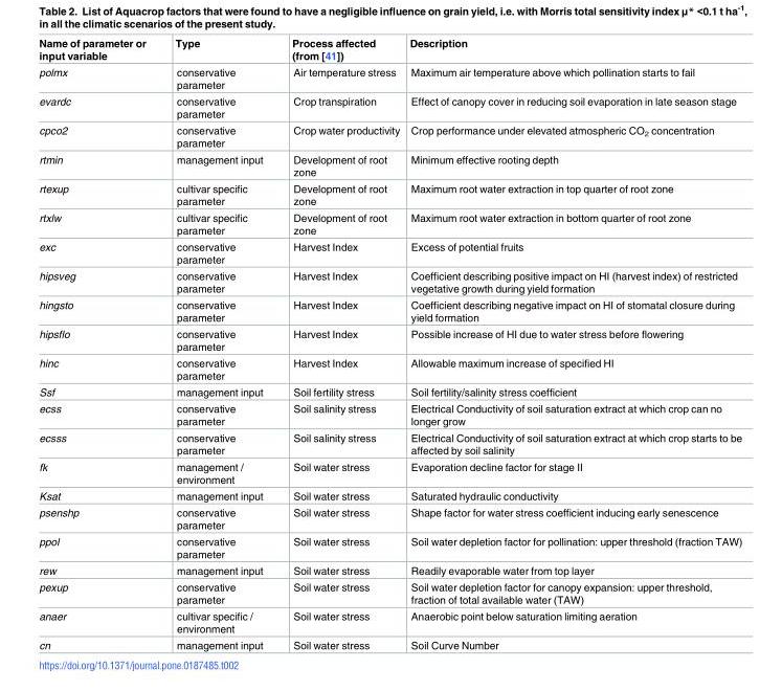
<table><thead><tr><td>Name of parameter or input variable</td><td>Type</td><td>Process affected (from [41])</td><td>Description</td></tr></thead><tbody><tr><td>polmx</td><td>conservative parameter</td><td>Air temperature stress</td><td>Maximum air temperature above which pollination starts to fail</td></tr><tr><td>evardc</td><td>conservative parameter</td><td>Crop transpiration</td><td>Effect of canopy cover in reducing soil evaporation in late season stage</td></tr><tr><td>cpco2</td><td>conservative parameter</td><td>Crop water productivity</td><td>Crop performance under elevated atmospheric CO<sub>2</sub> concentration</td></tr><tr><td>rtmin</td><td>management input</td><td>Development of root zone</td><td>Minimum effective rooting depth</td></tr><tr><td>rtexup</td><td>cultivar specific parameter</td><td>Development of root zone</td><td>Maximum root water extraction in top quarter of root zone</td></tr><tr><td>rtxlw</td><td>cultivar specific parameter</td><td>Development of root zone</td><td>Maximum root water extraction in bottom quarter of root zone</td></tr><tr><td>exc</td><td>conservative parameter</td><td>Harvest Index</td><td>Excess of potential fruits</td></tr><tr><td>hipsveg</td><td>conservative parameter</td><td>Harvest Index</td><td>Coefficient describing positive impact on HI (harvest index) of restricted vegetative growth during yield formation</td></tr><tr><td>hingsto</td><td>conservative parameter</td><td>Harvest Index</td><td>Coefficient describing negative impact on HI of stomatal closure during yield formation</td></tr><tr><td>hipsflo</td><td>conservative parameter</td><td>Harvest Index</td><td>Possible increase of HI due to water stress before flowering</td></tr><tr><td>hinc</td><td>conservative parameter</td><td>Harvest Index</td><td>Allowable maximum increase of specified HI</td></tr><tr><td>Ssf</td><td>management input</td><td>Soil fertility stress</td><td>Soil fertility/salinity stress coefficient</td></tr><tr><td>ecss</td><td>conservative parameter</td><td>Soil salinity stress</td><td>Electrical Conductivity of soil saturation extract at which crop can no longer grow</td></tr><tr><td>ecsss</td><td>conservative parameter</td><td>Soil salinity stress</td><td>Electrical Conductivity of soil saturation extract at which crop starts to be affected by soil salinity</td></tr><tr><td>fk</td><td>management / environment</td><td>Soil water stress</td><td>Evaporation decline factor for stage II</td></tr><tr><td>Ksat</td><td>management input</td><td>Soil water stress</td><td>Saturated hydraulic conductivity</td></tr><tr><td>psenshp</td><td>conservative parameter</td><td>Soil water stress</td><td>Shape factor for water stress coefficient inducing early senescence</td></tr><tr><td>ppol</td><td>conservative parameter</td><td>Soil water stress</td><td>Soil water depletion factor for pollination: upper threshold (fraction TAW)</td></tr><tr><td>rew</td><td>management input</td><td>Soil water stress</td><td>Readily evaporable water from top layer</td></tr><tr><td>pexup</td><td>conservative parameter</td><td>Soil water stress</td><td>Soil water depletion factor for canopy expansion: upper threshold, fraction of total available water (TAW)</td></tr><tr><td>anaer</td><td>cultivar specific / environment</td><td>Soil water stress</td><td>Anaerobic point below saturation limiting aeration</td></tr><tr><td>cn</td><td>management input</td><td>Soil water stress</td><td>Soil Curve Number</td></tr></tbody></table>